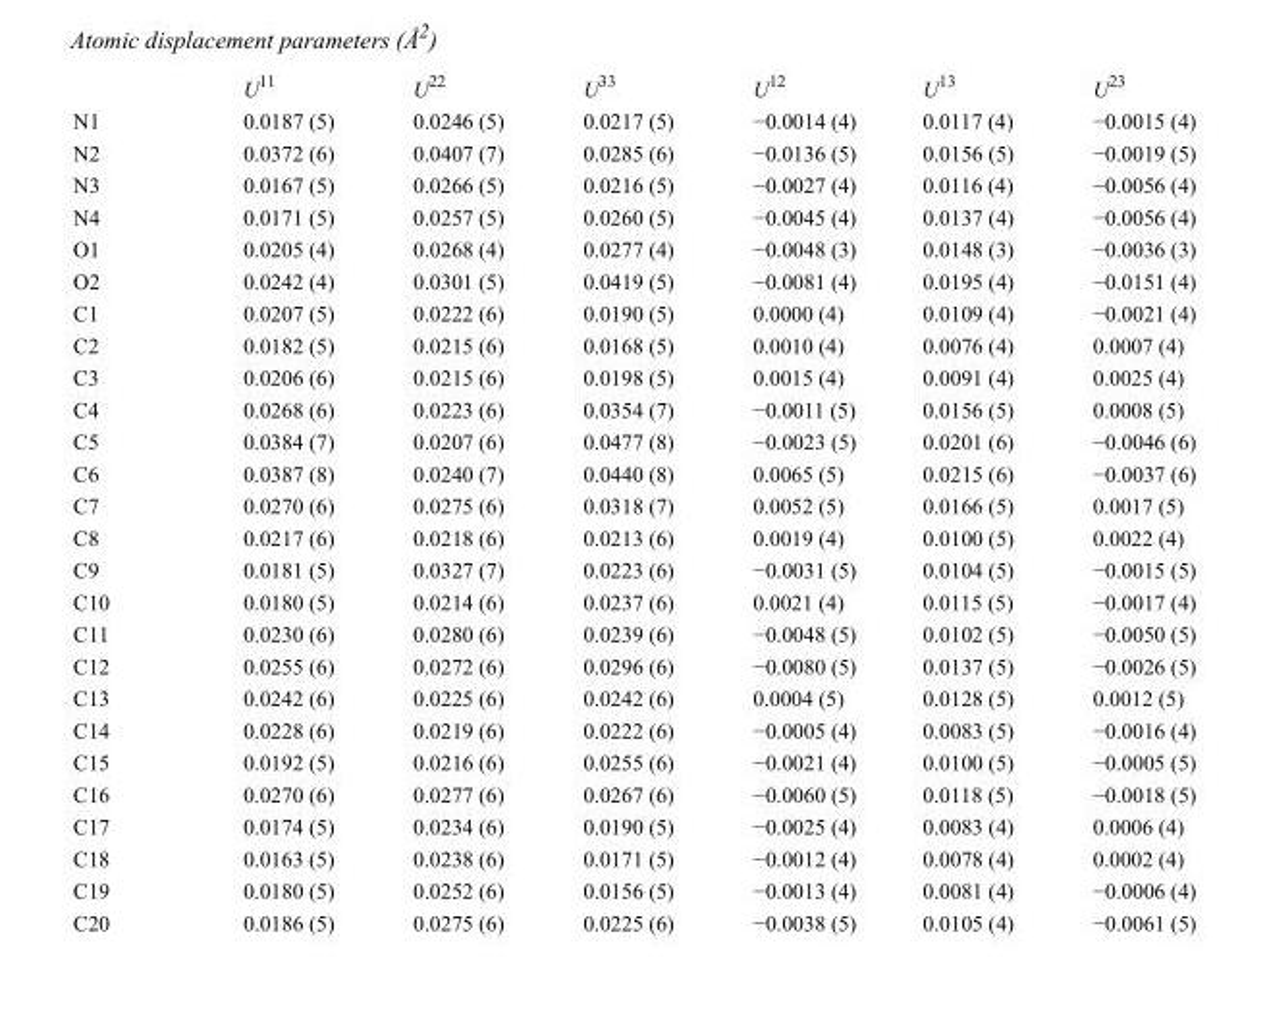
<table><thead><tr><td></td><td>U<sup>11</sup></td><td>U<sup>22</sup></td><td>U<sup>33</sup></td><td>U<sup>12</sup></td><td>U<sup>13</sup></td><td>U<sup>23</sup></td></tr></thead><tbody><tr><td>N1</td><td>0.0187 (5)</td><td>0.0246 (5)</td><td>0.0217 (5)</td><td>−0.0014 (4)</td><td>0.0117 (4)</td><td>−0.0015 (4)</td></tr><tr><td>N2</td><td>0.0372 (6)</td><td>0.0407 (7)</td><td>0.0285 (6)</td><td>−0.0136 (5)</td><td>0.0156 (5)</td><td>−0.0019 (5)</td></tr><tr><td>N3</td><td>0.0167 (5)</td><td>0.0266 (5)</td><td>0.0216 (5)</td><td>−0.0027 (4)</td><td>0.0116 (4)</td><td>−0.0056 (4)</td></tr><tr><td>N4</td><td>0.0171 (5)</td><td>0.0257 (5)</td><td>0.0260 (5)</td><td>−0.0045 (4)</td><td>0.0137 (4)</td><td>−0.0056 (4)</td></tr><tr><td>O1</td><td>0.0205 (4)</td><td>0.0268 (4)</td><td>0.0277 (4)</td><td>−0.0048 (3)</td><td>0.0148 (3)</td><td>−0.0036 (3)</td></tr><tr><td>O2</td><td>0.0242 (4)</td><td>0.0301 (5)</td><td>0.0419 (5)</td><td>−0.0081 (4)</td><td>0.0195 (4)</td><td>−0.0151 (4)</td></tr><tr><td>C1</td><td>0.0207 (5)</td><td>0.0222 (6)</td><td>0.0190 (5)</td><td>0.0000 (4)</td><td>0.0109 (4)</td><td>−0.0021 (4)</td></tr><tr><td>C2</td><td>0.0182 (5)</td><td>0.0215 (6)</td><td>0.0168 (5)</td><td>0.0010 (4)</td><td>0.0076 (4)</td><td>0.0007 (4)</td></tr><tr><td>C3</td><td>0.0206 (6)</td><td>0.0215 (6)</td><td>0.0198 (5)</td><td>0.0015 (4)</td><td>0.0091 (4)</td><td>0.0025 (4)</td></tr><tr><td>C4</td><td>0.0268 (6)</td><td>0.0223 (6)</td><td>0.0354 (7)</td><td>−0.0011 (5)</td><td>0.0156 (5)</td><td>0.0008 (5)</td></tr><tr><td>C5</td><td>0.0384 (7)</td><td>0.0207 (6)</td><td>0.0477 (8)</td><td>−0.0023 (5)</td><td>0.0201 (6)</td><td>−0.0046 (6)</td></tr><tr><td>C6</td><td>0.0387 (8)</td><td>0.0240 (7)</td><td>0.0440 (8)</td><td>0.0065 (5)</td><td>0.0215 (6)</td><td>−0.0037 (6)</td></tr><tr><td>C7</td><td>0.0270 (6)</td><td>0.0275 (6)</td><td>0.0318 (7)</td><td>0.0052 (5)</td><td>0.0166 (5)</td><td>0.0017 (5)</td></tr><tr><td>C8</td><td>0.0217 (6)</td><td>0.0218 (6)</td><td>0.0213 (6)</td><td>0.0019 (4)</td><td>0.0100 (5)</td><td>0.0022 (4)</td></tr><tr><td>C9</td><td>0.0181 (5)</td><td>0.0327 (7)</td><td>0.0223 (6)</td><td>−0.0031 (5)</td><td>0.0104 (5)</td><td>−0.0015 (5)</td></tr><tr><td>C10</td><td>0.0180 (5)</td><td>0.0214 (6)</td><td>0.0237 (6)</td><td>0.0021 (4)</td><td>0.0115 (5)</td><td>−0.0017 (4)</td></tr><tr><td>C11</td><td>0.0230 (6)</td><td>0.0280 (6)</td><td>0.0239 (6)</td><td>−0.0048 (5)</td><td>0.0102 (5)</td><td>−0.0050 (5)</td></tr><tr><td>C12</td><td>0.0255 (6)</td><td>0.0272 (6)</td><td>0.0296 (6)</td><td>−0.0080 (5)</td><td>0.0137 (5)</td><td>−0.0026 (5)</td></tr><tr><td>C13</td><td>0.0242 (6)</td><td>0.0225 (6)</td><td>0.0242 (6)</td><td>0.0004 (5)</td><td>0.0128 (5)</td><td>0.0012 (5)</td></tr><tr><td>C14</td><td>0.0228 (6)</td><td>0.0219 (6)</td><td>0.0222 (6)</td><td>−0.0005 (4)</td><td>0.0083 (5)</td><td>−0.0016 (4)</td></tr><tr><td>C15</td><td>0.0192 (5)</td><td>0.0216 (6)</td><td>0.0255 (6)</td><td>−0.0021 (4)</td><td>0.0100 (5)</td><td>−0.0005 (5)</td></tr><tr><td>C16</td><td>0.0270 (6)</td><td>0.0277 (6)</td><td>0.0267 (6)</td><td>−0.0060 (5)</td><td>0.0118 (5)</td><td>−0.0018 (5)</td></tr><tr><td>C17</td><td>0.0174 (5)</td><td>0.0234 (6)</td><td>0.0190 (5)</td><td>−0.0025 (4)</td><td>0.0083 (4)</td><td>0.0006 (4)</td></tr><tr><td>C18</td><td>0.0163 (5)</td><td>0.0238 (6)</td><td>0.0171 (5)</td><td>−0.0012 (4)</td><td>0.0078 (4)</td><td>0.0002 (4)</td></tr><tr><td>C19</td><td>0.0180 (5)</td><td>0.0252 (6)</td><td>0.0156 (5)</td><td>−0.0013 (4)</td><td>0.0081 (4)</td><td>−0.0006 (4)</td></tr><tr><td>C20</td><td>0.0186 (5)</td><td>0.0275 (6)</td><td>0.0225 (6)</td><td>−0.0038 (5)</td><td>0.0105 (4)</td><td>−0.0061 (5)</td></tr></tbody></table>